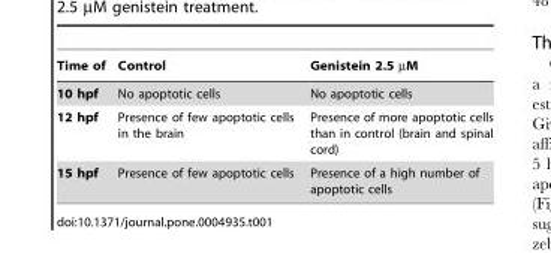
<table><thead><tr><td>Time of</td><td>Control</td><td>Genistein 2.5 µM</td></tr></thead><tbody><tr><td>10 hpf</td><td>No apoptotic cells</td><td>No apoptotic cells</td></tr><tr><td>12 hpf</td><td>Presence of few apoptotic cells in the brain</td><td>Presence of more apoptotic cells than in control (brain and spinal cord)</td></tr><tr><td>15 hpf</td><td>Presence of few apoptotic cells</td><td>Presence of a high number of apoptotic cells</td></tr></tbody></table>